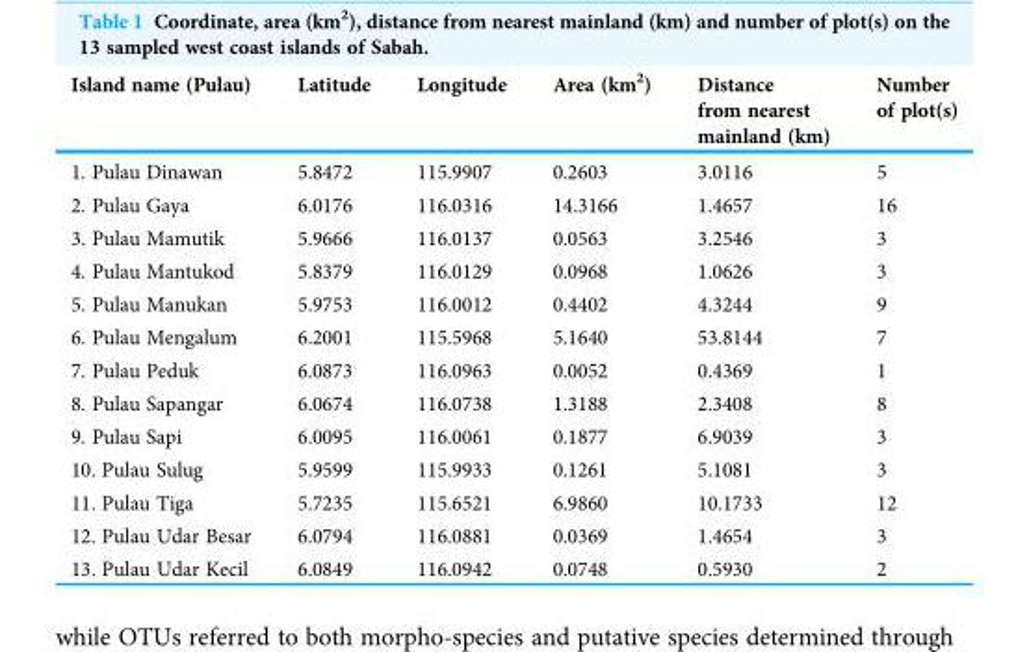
<table><thead><tr><td>Island name (Pulau)</td><td>Latitude</td><td>Longitude</td><td>Area (km<sup>2</sup>)</td><td>Distance from nearest mainland (km)</td><td>Number of plot(s)</td></tr></thead><tbody><tr><td>1. Pulau Dinawan</td><td>5.8472</td><td>115.9907</td><td>0.2603</td><td>3.0116</td><td>5</td></tr><tr><td>2. Pulau Gaya</td><td>6.0176</td><td>116.0316</td><td>14.3166</td><td>1.4657</td><td>16</td></tr><tr><td>3. Pulau Mamutik</td><td>5.9666</td><td>116.0137</td><td>0.0563</td><td>3.2546</td><td>3</td></tr><tr><td>4. Pulau Mantukod</td><td>5.8379</td><td>116.0129</td><td>0.0968</td><td>1.0626</td><td>3</td></tr><tr><td>5. Pulau Manukan</td><td>5.9753</td><td>116.0012</td><td>0.4402</td><td>4.3244</td><td>9</td></tr><tr><td>6. Pulau Mengalum</td><td>6.2001</td><td>115.5968</td><td>5.1640</td><td>53.8144</td><td>7</td></tr><tr><td>7. Pulau Peduk</td><td>6.0873</td><td>116.0963</td><td>0.0052</td><td>0.4369</td><td>1</td></tr><tr><td>8. Pulau Sapangar</td><td>6.0674</td><td>116.0738</td><td>1.3188</td><td>2.3408</td><td>8</td></tr><tr><td>9. Pulau Sapi</td><td>6.0095</td><td>116.0061</td><td>0.1877</td><td>6.9039</td><td>3</td></tr><tr><td>10. Pulau Sulug</td><td>5.9599</td><td>115.9933</td><td>0.1261</td><td>5.1081</td><td>3</td></tr><tr><td>11. Pulau Tiga</td><td>5.7235</td><td>115.6521</td><td>6.9860</td><td>10.1733</td><td>12</td></tr><tr><td>12. Pulau Udar Besar</td><td>6.0794</td><td>116.0881</td><td>0.0369</td><td>1.4654</td><td>3</td></tr><tr><td>13. Pulau Udar Kecil</td><td>6.0849</td><td>116.0942</td><td>0.0748</td><td>0.5930</td><td>2</td></tr></tbody></table>